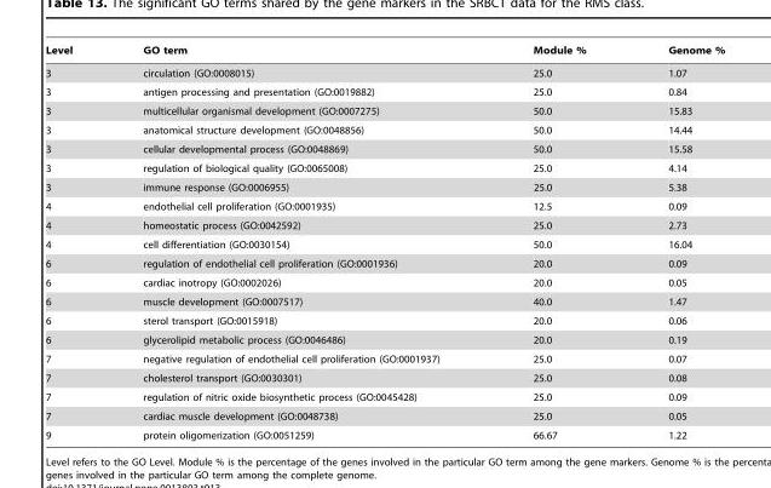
<table><thead><tr><td>Level</td><td>GO term</td><td>Module %</td><td>Genome %</td></tr></thead><tbody><tr><td>3</td><td>circulation (GO:0008015)</td><td>25.0</td><td>1.07</td></tr><tr><td>3</td><td>antigen processing and presentation (GO:0019882)</td><td>25.0</td><td>0.84</td></tr><tr><td>3</td><td>multicellular organismal development (GO:0007275)</td><td>50.0</td><td>15.83</td></tr><tr><td>3</td><td>anatomical structure development (GO:0048856)</td><td>50.0</td><td>14.44</td></tr><tr><td>3</td><td>cellular developmental process (GO:0048869)</td><td>50.0</td><td>15.58</td></tr><tr><td>3</td><td>regulation of biological quality (GO:0065008)</td><td>25.0</td><td>4.14</td></tr><tr><td>3</td><td>immune response (GO:0006955)</td><td>25.0</td><td>5.38</td></tr><tr><td>4</td><td>endothelial cell proliferation (GO:0001935)</td><td>12.5</td><td>0.09</td></tr><tr><td>4</td><td>homeostatic process (GO:0042592)</td><td>25.0</td><td>2.73</td></tr><tr><td>4</td><td>cell differentiation (GO:0030154)</td><td>50.0</td><td>16.04</td></tr><tr><td>6</td><td>regulation of endothelial cell proliferation (GO:0001936)</td><td>20.0</td><td>0.09</td></tr><tr><td>6</td><td>cardiac inotropy (GO:0002026)</td><td>20.0</td><td>0.05</td></tr><tr><td>6</td><td>muscle development (GO:0007517)</td><td>40.0</td><td>1.47</td></tr><tr><td>6</td><td>sterol transport (GO:0015918)</td><td>20.0</td><td>0.06</td></tr><tr><td>6</td><td>glycerolipid metabolic process (GO:0046486)</td><td>20.0</td><td>0.19</td></tr><tr><td>7</td><td>negative regulation of endothelial cell proliferation (GO:0001937)</td><td>25.0</td><td>0.07</td></tr><tr><td>7</td><td>cholesterol transport (GO:0030301)</td><td>25.0</td><td>0.08</td></tr><tr><td>7</td><td>regulation of nitric oxide biosynthetic process (GO:0045428)</td><td>25.0</td><td>0.09</td></tr><tr><td>7</td><td>cardiac muscle development (GO:0048738)</td><td>25.0</td><td>0.05</td></tr><tr><td>9</td><td>protein oligomerization (GO:0051259)</td><td>66.67</td><td>1.22</td></tr></tbody></table>